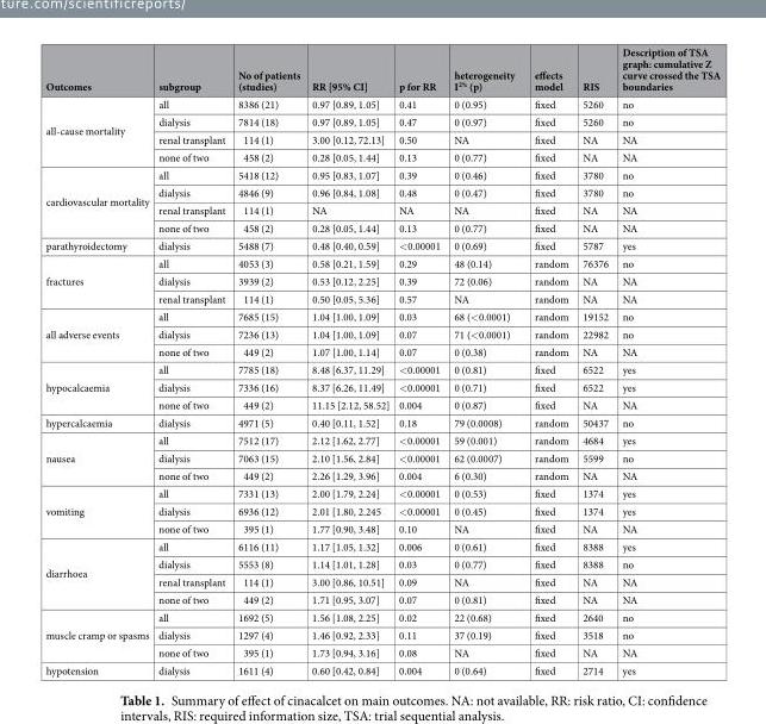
<table><thead><tr><td>Outcomes</td><td>subgroup</td><td>No of patients (studies)</td><td>RR [95% CI]</td><td>p for RR</td><td>heterogeneity I<sup>2%</sup> (p)</td><td>effects model</td><td>RIS</td><td>Description of TSA graph: cumulative Z curve crossed the TSA boundaries</td></tr></thead><tbody><tr><td rowspan="4">all-cause mortality</td><td>all</td><td>8386 (21)</td><td>0.97 [0.89, 1.05]</td><td>0.41</td><td>0 (0.95)</td><td>fixed</td><td>5260</td><td>no</td></tr><tr><td>dialysis</td><td>7814 (18)</td><td>0.97 [0.89, 1.05]</td><td>0.47</td><td>0 (0.97)</td><td>fixed</td><td>5260</td><td>no</td></tr><tr><td>renal transplant</td><td>114 (1)</td><td>3.00 [0.12, 72.13]</td><td>0.50</td><td>NA</td><td>fixed</td><td>NA</td><td>NA</td></tr><tr><td>none of two</td><td>458 (2)</td><td>0.28 [0.05, 1.44]</td><td>0.13</td><td>0 (0.77)</td><td>fixed</td><td>NA</td><td>NA</td></tr><tr><td rowspan="4">cardiovascular mortality</td><td>all</td><td>5418 (12)</td><td>0.95 [0.83, 1.07]</td><td>0.39</td><td>0 (0.46)</td><td>fixed</td><td>3780</td><td>no</td></tr><tr><td>dialysis</td><td>4846 (9)</td><td>0.96 [0.84, 1.08]</td><td>0.48</td><td>0 (0.47)</td><td>fixed</td><td>3780</td><td>no</td></tr><tr><td>renal transplant</td><td>114 (1)</td><td>NA</td><td>NA</td><td>NA</td><td>fixed</td><td>NA</td><td>NA</td></tr><tr><td>none of two</td><td>458 (2)</td><td>0.28 [0.05, 1.44]</td><td>0.13</td><td>0 (0.77)</td><td>fixed</td><td>NA</td><td>NA</td></tr><tr><td>parathyroidectomy</td><td>dialysis</td><td>5488 (7)</td><td>0.48 [0.40, 0.59]</td><td>&lt;0.00001</td><td>0 (0.69)</td><td>fixed</td><td>5787</td><td>yes</td></tr><tr><td rowspan="3">fractures</td><td>all</td><td>4053 (3)</td><td>0.58 [0.21, 1.59]</td><td>0.29</td><td>48 (0.14)</td><td>random</td><td>76376</td><td>no</td></tr><tr><td>dialysis</td><td>3939 (2)</td><td>0.53 [0.12, 2.25]</td><td>0.39</td><td>72 (0.06)</td><td>random</td><td>NA</td><td>NA</td></tr><tr><td>renal transplant</td><td>114 (1)</td><td>0.50 [0.05, 5.36]</td><td>0.57</td><td>NA</td><td>random</td><td>NA</td><td>NA</td></tr><tr><td rowspan="3">all adverse events</td><td>all</td><td>7685 (15)</td><td>1.04 [1.00, 1.09]</td><td>0.03</td><td>68 (&lt;0.0001)</td><td>random</td><td>19152</td><td>no</td></tr><tr><td>dialysis</td><td>7236 (13)</td><td>1.04 [1.00, 1.09]</td><td>0.07</td><td>71 (&lt;0.0001)</td><td>random</td><td>22982</td><td>no</td></tr><tr><td>none of two</td><td>449 (2)</td><td>1.07 [1.00, 1.14]</td><td>0.07</td><td>0 (0.38)</td><td>random</td><td>NA</td><td>NA</td></tr><tr><td rowspan="3">hypocalcaemia</td><td>all</td><td>7785 (18)</td><td>8.48 [6.37, 11.29]</td><td>&lt;0.00001</td><td>0 (0.81)</td><td>fixed</td><td>6522</td><td>yes</td></tr><tr><td>dialysis</td><td>7336 (16)</td><td>8.37 [6.26, 11.49]</td><td>&lt;0.00001</td><td>0 (0.71)</td><td>fixed</td><td>6522</td><td>yes</td></tr><tr><td>none of two</td><td>449 (2)</td><td>11.15 [2.12, 58.52]</td><td>0.004</td><td>0 (0.87)</td><td>fixed</td><td>NA</td><td>NA</td></tr><tr><td>hypercalcaemia</td><td>dialysis</td><td>4971 (5)</td><td>0.40 [0.11, 1.52]</td><td>0.18</td><td>79 (0.0008)</td><td>random</td><td>50437</td><td>no</td></tr><tr><td rowspan="3">nausea</td><td>all</td><td>7512 (17)</td><td>2.12 [1.62, 2.77]</td><td>&lt;0.00001</td><td>59 (0.001)</td><td>random</td><td>4684</td><td>yes</td></tr><tr><td>dialysis</td><td>7063 (15)</td><td>2.10 [1.56, 2.84]</td><td>&lt;0.00001</td><td>62 (0.0007)</td><td>random</td><td>5599</td><td>no</td></tr><tr><td>none of two</td><td>449 (2)</td><td>2.26 [1.29, 3.96]</td><td>0.004</td><td>6 (0.30)</td><td>random</td><td>NA</td><td>NA</td></tr><tr><td rowspan="3">vomiting</td><td>all</td><td>7331 (13)</td><td>2.00 [1.79, 2.24]</td><td>&lt;0.00001</td><td>0 (0.53)</td><td>fixed</td><td>1374</td><td>yes</td></tr><tr><td>dialysis</td><td>6936 (12)</td><td>2.01 [1.80, 2.245</td><td>&lt;0.00001</td><td>0 (0.45)</td><td>fixed</td><td>1374</td><td>yes</td></tr><tr><td>none of two</td><td>395 (1)</td><td>1.77 [0.90, 3.48]</td><td>0.10</td><td>NA</td><td>fixed</td><td>NA</td><td>NA</td></tr><tr><td rowspan="4">diarrhoea</td><td>all</td><td>6116 (11)</td><td>1.17 [1.05, 1.32]</td><td>0.006</td><td>0 (0.61)</td><td>fixed</td><td>8388</td><td>yes</td></tr><tr><td>dialysis</td><td>5553 (8)</td><td>1.14 [1.01, 1.28]</td><td>0.03</td><td>0 (0.77)</td><td>fixed</td><td>8388</td><td>no</td></tr><tr><td>renal transplant</td><td>114 (1)</td><td>3.00 [0.86, 10.51]</td><td>0.09</td><td>NA</td><td>fixed</td><td>NA</td><td>NA</td></tr><tr><td>none of two</td><td>449 (2)</td><td>1.71 [0.95, 3.07]</td><td>0.07</td><td>0 (0.81)</td><td>fixed</td><td>NA</td><td>NA</td></tr><tr><td rowspan="3">muscle cramp or spasms</td><td>all</td><td>1692 (5)</td><td>1.56 [1.08, 2.25]</td><td>0.02</td><td>22 (0.68)</td><td>fixed</td><td>2640</td><td>no</td></tr><tr><td>dialysis</td><td>1297 (4)</td><td>1.46 [0.92, 2.33]</td><td>0.11</td><td>37 (0.19)</td><td>fixed</td><td>3518</td><td>no</td></tr><tr><td>none of two</td><td>395 (1)</td><td>1.73 [0.94, 3.16]</td><td>0.08</td><td>NA</td><td>fixed</td><td>NA</td><td>NA</td></tr><tr><td>hypotension</td><td>dialysis</td><td>1611 (4)</td><td>0.60 [0.42, 0.84]</td><td>0.004</td><td>0 (0.64)</td><td>fixed</td><td>2714</td><td>yes</td></tr></tbody></table>